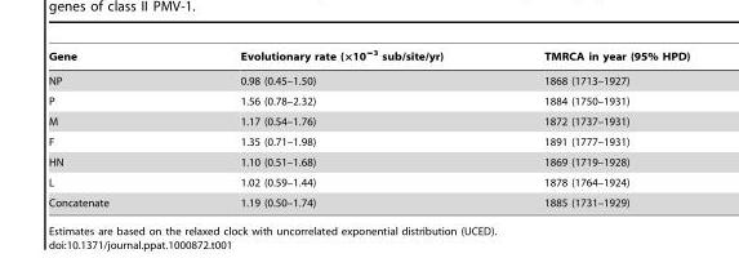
<table><thead><tr><td>Gene</td><td>Evolutionary rate (×10<sup>−3</sup> sub/site/yr)</td><td>TMRCA in year (95% HPD)</td></tr></thead><tbody><tr><td>NP</td><td>0.98 (0.45–1.50)</td><td>1868 (1713–1927)</td></tr><tr><td>P</td><td>1.56 (0.78–2.32)</td><td>1884 (1750–1931)</td></tr><tr><td>M</td><td>1.17 (0.54–1.76)</td><td>1872 (1737–1931)</td></tr><tr><td>F</td><td>1.35 (0.71–1.98)</td><td>1891 (1777–1931)</td></tr><tr><td>HN</td><td>1.10 (0.51–1.68)</td><td>1869 (1719–1928)</td></tr><tr><td>L</td><td>1.02 (0.59–1.44)</td><td>1878 (1764–1924)</td></tr><tr><td>Concatenate</td><td>1.19 (0.50–1.74)</td><td>1885 (1731–1929)</td></tr></tbody></table>